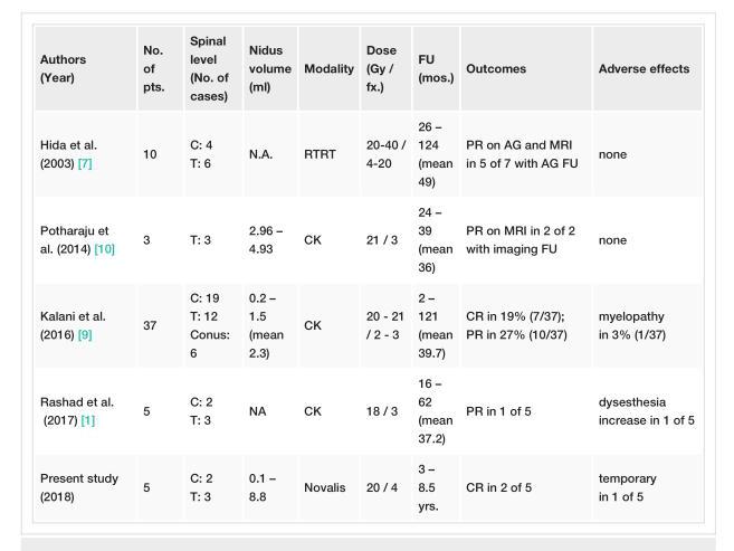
<table><tbody><tr><td>Authors (Year)</td><td>No. of pts.</td><td>Spinal level (No. of cases)</td><td>Nidus volume (ml)</td><td>Modality</td><td>Dose (Gy / fx.)</td><td>FU (mos.)</td><td>Outcomes</td><td>Adverse effects</td></tr><tr><td>Hida et al. (2003) [7]</td><td>10</td><td>C: 4 T: 6</td><td>N.A.</td><td>RTRT</td><td>20-40 / 4-20</td><td>26 – 124 (mean 49)</td><td>PR on AG and MRI in 5 of 7 with AG FU</td><td>none</td></tr><tr><td>Potharaju et al. (2014) [10]</td><td>3</td><td>T: 3</td><td>2.96 – 4.93</td><td>CK</td><td>21 / 3</td><td>24 – 39 (mean 36)</td><td>PR on MRI in 2 of 2 with imaging FU</td><td>none</td></tr><tr><td>Kalani et al. (2016) [9]</td><td>37</td><td>C: 19 T: 12 Conus: 6</td><td>0.2 – 1.5 (mean 2.3)</td><td>CK</td><td>20 - 21 / 2 - 3</td><td>2 – 121 (mean 39.7)</td><td>CR in 19% (7/37); PR in 27% (10/37)</td><td>myelopathy in 3% (1/37)</td></tr><tr><td>Rashad et al. (2017) [1]</td><td>5</td><td>C: 2 T: 3</td><td>NA</td><td>CK</td><td>18 / 3</td><td>16 – 62 (mean 37.2)</td><td>PR in 1 of 5</td><td>dysesthesia increase in 1 of 5</td></tr><tr><td>Present study (2018)</td><td>5</td><td>C: 2 T: 3</td><td>0.1 – 8.8</td><td>Novalis</td><td>20 / 4</td><td>3 – 8.5 yrs.</td><td>CR in 2 of 5</td><td>temporary in 1 of 5</td></tr></tbody></table>